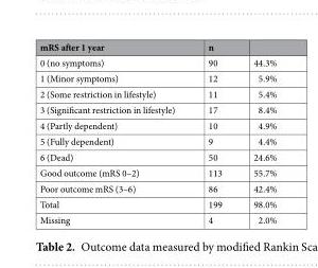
<table><thead><tr><td>mRS after 1 year</td><td>n</td><td></td></tr></thead><tbody><tr><td>0 (no symptoms)</td><td>90</td><td>44.3%</td></tr><tr><td>1 (Minor symptoms)</td><td>12</td><td>5.9%</td></tr><tr><td>2 (Some restriction in lifestyle)</td><td>11</td><td>5.4%</td></tr><tr><td>3 (Significant restriction in lifestyle)</td><td>17</td><td>8.4%</td></tr><tr><td>4 (Partly dependent)</td><td>10</td><td>4.9%</td></tr><tr><td>5 (Fully dependent)</td><td>9</td><td>4.4%</td></tr><tr><td>6 (Dead)</td><td>50</td><td>24.6%</td></tr><tr><td>Good outcome (mRS 0–2)</td><td>113</td><td>55.7%</td></tr><tr><td>Poor outcome mRS (3–6)</td><td>86</td><td>42.4%</td></tr><tr><td>Total</td><td>199</td><td>98.0%</td></tr><tr><td>Missing</td><td>4</td><td>2.0%</td></tr></tbody></table>